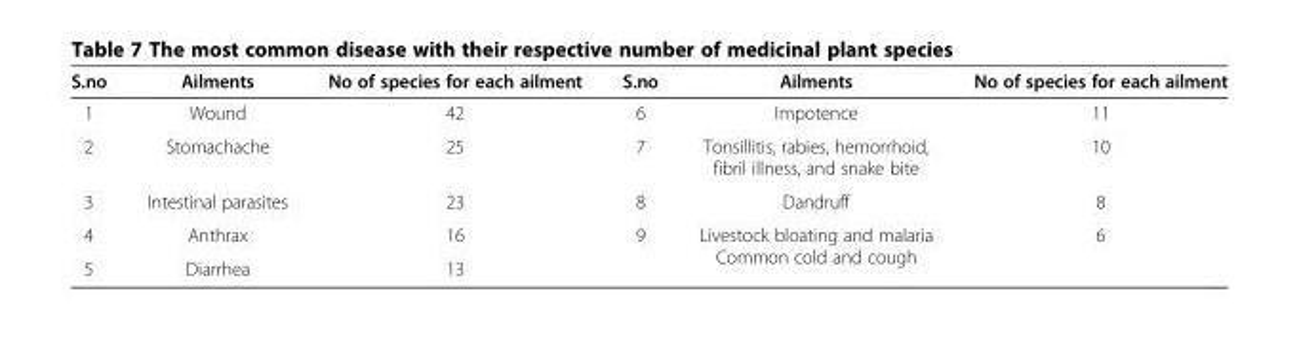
<table><thead><tr><td>S.no</td><td>Ailments</td><td>No of species for each ailment</td><td>S.no</td><td>Ailments</td><td>No of species for each ailment</td></tr></thead><tbody><tr><td>1</td><td>Wound</td><td>42</td><td>6</td><td>Impotence</td><td>11</td></tr><tr><td>2</td><td>Stomachache</td><td>25</td><td>7</td><td>Tonsillitis, rabies, hemorrhoid, fibril illness, and snake bite</td><td>10</td></tr><tr><td>3</td><td>Intestinal parasites</td><td>23</td><td>8</td><td>Dandruff</td><td>8</td></tr><tr><td>4</td><td>Anthrax</td><td>16</td><td rowspan="2">9</td><td rowspan="2">Livestock bloating and malaria Common cold and cough</td><td rowspan="2">6</td></tr><tr><td>5</td><td>Diarrhea</td><td>13</td></tr></tbody></table>